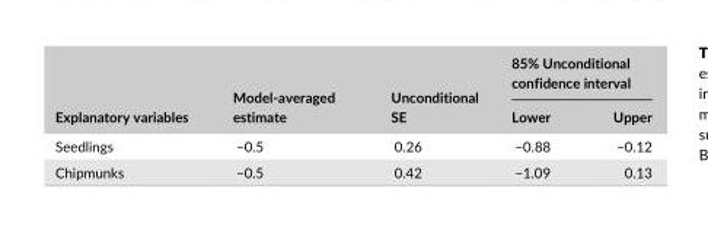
<table><thead><tr><td rowspan="2">Explanatory variables</td><td rowspan="2">Model- averaged estimate</td><td rowspan="2">Unconditional SE</td><td colspan="2">85% Unconditional confidence interval</td></tr><tr><td>Lower</td><td>Upper</td></tr></thead><tbody><tr><td>Seedlings</td><td>−0.5</td><td>0.26</td><td>−0.88</td><td>−0.12</td></tr><tr><td>Chipmunks</td><td>−0.5</td><td>0.42</td><td>−1.09</td><td>0.13</td></tr></tbody></table>